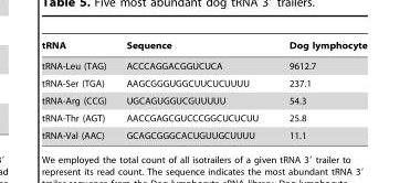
<table><thead><tr><td>tRNA</td><td>Sequence</td><td>Dog lymphocyte</td></tr></thead><tbody><tr><td>tRNA-Leu (TAG)</td><td>ACCCAGGACGGUCUCA</td><td>9612.7</td></tr><tr><td>tRNA-Ser (TGA)</td><td>AAGCGGGUGGCUUCUCUUUU</td><td>237.1</td></tr><tr><td>tRNA-Arg (CCG)</td><td>UGCAGUGGUCGUUUUU</td><td>54.3</td></tr><tr><td>tRNA-Thr (AGT)</td><td>AACCGAGCGUCCCGGCUCUCUU</td><td>25.8</td></tr><tr><td>tRNA-Val (AAC)</td><td>GCAGCGGGCACUGUUGCUUUU</td><td>11.1</td></tr></tbody></table>